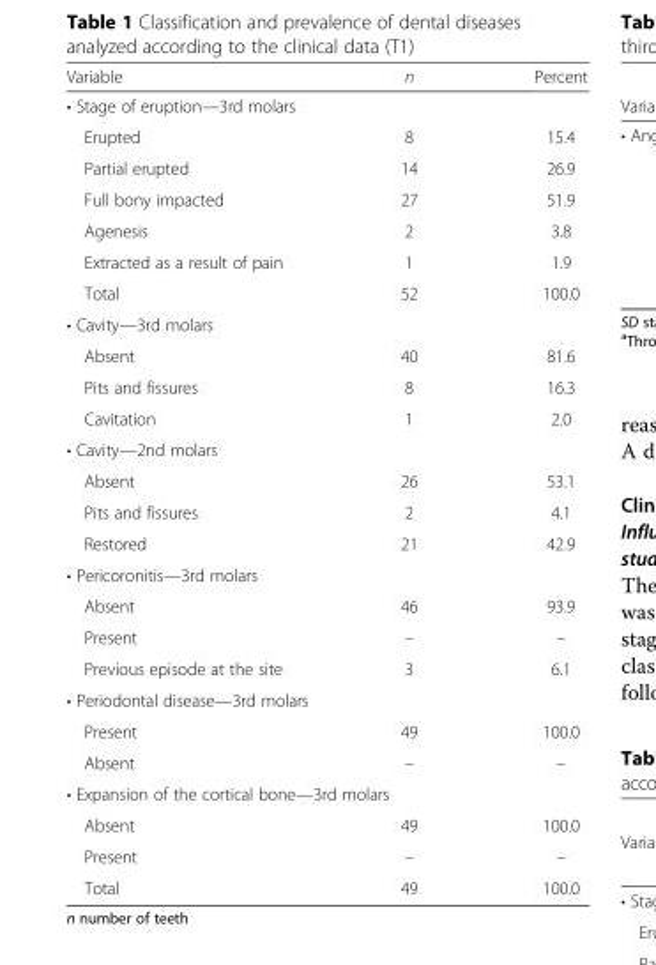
<table><thead><tr><td>Variable</td><td>n</td><td>Percent</td></tr></thead><tbody><tr><td colspan="3">• Stage of eruption—3rd molars</td></tr><tr><td>Erupted</td><td>8</td><td>15.4</td></tr><tr><td>Partial erupted</td><td>14</td><td>26.9</td></tr><tr><td>Full bony impacted</td><td>27</td><td>51.9</td></tr><tr><td>Agenesis</td><td>2</td><td>3.8</td></tr><tr><td>Extracted as a result of pain</td><td>1</td><td>1.9</td></tr><tr><td>Total</td><td>52</td><td>100.0</td></tr><tr><td colspan="3">• Cavity—3rd molars</td></tr><tr><td>Absent</td><td>40</td><td>81.6</td></tr><tr><td>Pits and fissures</td><td>8</td><td>16.3</td></tr><tr><td>Cavitation</td><td>1</td><td>2.0</td></tr><tr><td colspan="3">• Cavity—2nd molars</td></tr><tr><td>Absent</td><td>26</td><td>53.1</td></tr><tr><td>Pits and fissures</td><td>2</td><td>4.1</td></tr><tr><td>Restored</td><td>21</td><td>42.9</td></tr><tr><td colspan="3">• Pericoronitis—3rd molars</td></tr><tr><td>Absent</td><td>46</td><td>93.9</td></tr><tr><td>Present</td><td>–</td><td>–</td></tr><tr><td>Previous episode at the site</td><td>3</td><td>6.1</td></tr><tr><td colspan="3">• Periodontal disease—3rd molars</td></tr><tr><td>Present</td><td>49</td><td>100.0</td></tr><tr><td>Absent</td><td>–</td><td>–</td></tr><tr><td colspan="3">• Expansion of the cortical bone—3rd molars</td></tr><tr><td>Absent</td><td>49</td><td>100.0</td></tr><tr><td>Present</td><td>–</td><td>–</td></tr><tr><td>Total</td><td>49</td><td>100.0</td></tr></tbody></table>